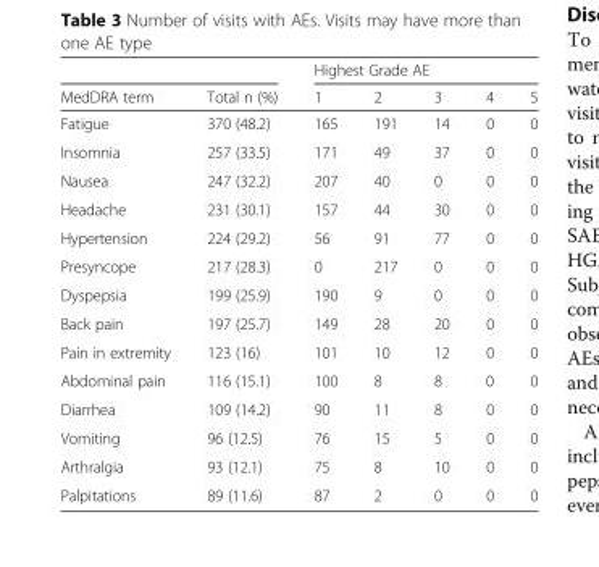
<table><thead><tr><td rowspan="2">MedDRA term</td><td rowspan="2">Total n (%)</td><td colspan="5">Highest Grade AE</td></tr><tr><td>1</td><td>2</td><td>3</td><td>4</td><td>5</td></tr></thead><tbody><tr><td>Fatigue</td><td>370 (48.2)</td><td>165</td><td>191</td><td>14</td><td>0</td><td>0</td></tr><tr><td>Insomnia</td><td>257 (33.5)</td><td>171</td><td>49</td><td>37</td><td>0</td><td>0</td></tr><tr><td>Nausea</td><td>247 (32.2)</td><td>207</td><td>40</td><td>0</td><td>0</td><td>0</td></tr><tr><td>Headache</td><td>231 (30.1)</td><td>157</td><td>44</td><td>30</td><td>0</td><td>0</td></tr><tr><td>Hypertension</td><td>224 (29.2)</td><td>56</td><td>91</td><td>77</td><td>0</td><td>0</td></tr><tr><td>Presyncope</td><td>217 (28.3)</td><td>0</td><td>217</td><td>0</td><td>0</td><td>0</td></tr><tr><td>Dyspepsia</td><td>199 (25.9)</td><td>190</td><td>9</td><td>0</td><td>0</td><td>0</td></tr><tr><td>Back pain</td><td>197 (25.7)</td><td>149</td><td>28</td><td>20</td><td>0</td><td>0</td></tr><tr><td>Pain in extremity</td><td>123 (16)</td><td>101</td><td>10</td><td>12</td><td>0</td><td>0</td></tr><tr><td>Abdominal pain</td><td>116 (15.1)</td><td>100</td><td>8</td><td>8</td><td>0</td><td>0</td></tr><tr><td>Diarrhea</td><td>109 (14.2)</td><td>90</td><td>11</td><td>8</td><td>0</td><td>0</td></tr><tr><td>Vomiting</td><td>96 (12.5)</td><td>76</td><td>15</td><td>5</td><td>0</td><td>0</td></tr><tr><td>Arthralgia</td><td>93 (12.1)</td><td>75</td><td>8</td><td>10</td><td>0</td><td>0</td></tr><tr><td>Palpitations</td><td>89 (11.6)</td><td>87</td><td>2</td><td>0</td><td>0</td><td>0</td></tr></tbody></table>